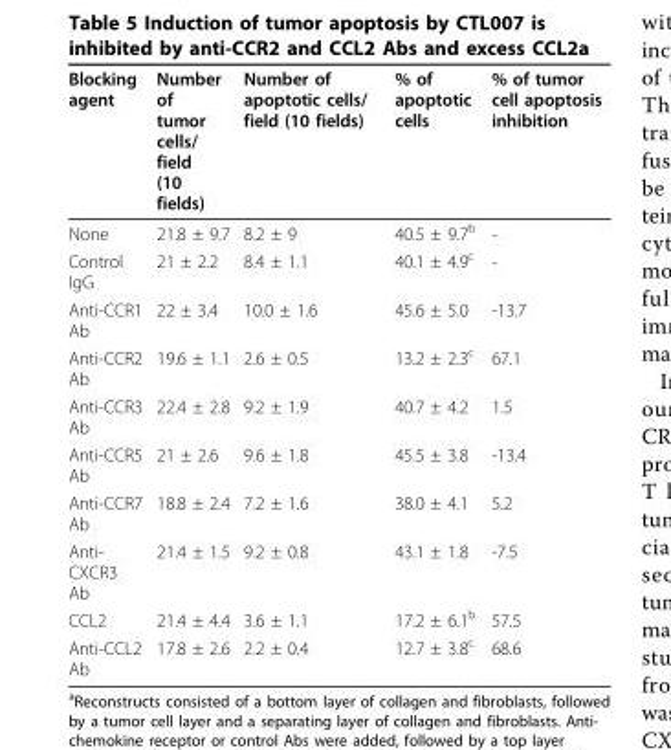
<table><thead><tr><td>Blocking agent</td><td>Number of tumor cells/ field (10 fields)</td><td>Number of apoptotic cells/ field (10 fields)</td><td>% of apoptotic cells</td><td>% of tumor cell apoptosis inhibition</td></tr></thead><tbody><tr><td>None</td><td>21.8 ± 9.7</td><td>8.2 ± 9</td><td>40.5 ± 9.7<sup>b</sup></td><td>-</td></tr><tr><td>Control IgG</td><td>21 ± 2.2</td><td>8.4 ± 1.1</td><td>40.1 ± 4.9<sup>c</sup></td><td>-</td></tr><tr><td>Anti-CCR1 Ab</td><td>22 ± 3.4</td><td>10.0 ± 1.6</td><td>45.6 ± 5.0</td><td>-13.7</td></tr><tr><td>Anti-CCR2 Ab</td><td>19.6 ± 1.1</td><td>2.6 ± 0.5</td><td>13.2 ± 2.3<sup>c</sup></td><td>67.1</td></tr><tr><td>Anti-CCR3 Ab</td><td>22.4 ± 2.8</td><td>9.2 ± 1.9</td><td>40.7 ± 4.2</td><td>1.5</td></tr><tr><td>Anti-CCR5 Ab</td><td>21 ± 2.6</td><td>9.6 ± 1.8</td><td>45.5 ± 3.8</td><td>-13.4</td></tr><tr><td>Anti-CCR7 Ab</td><td>18.8 ± 2.4</td><td>7.2 ± 1.6</td><td>38.0 ± 4.1</td><td>5.2</td></tr><tr><td>Anti- CXCR3 Ab</td><td>21.4 ± 1.5</td><td>9.2 ± 0.8</td><td>43.1 ± 1.8</td><td>-7.5</td></tr><tr><td>CCL2</td><td>21.4 ± 4.4</td><td>3.6 ± 1.1</td><td>17.2 ± 6.1<sup>b</sup></td><td>57.5</td></tr><tr><td>Anti-CCL2 Ab</td><td>17.8 ± 2.6</td><td>2.2 ± 0.4</td><td>12.7 ± 3.8<sup>c</sup></td><td>68.6</td></tr></tbody></table>